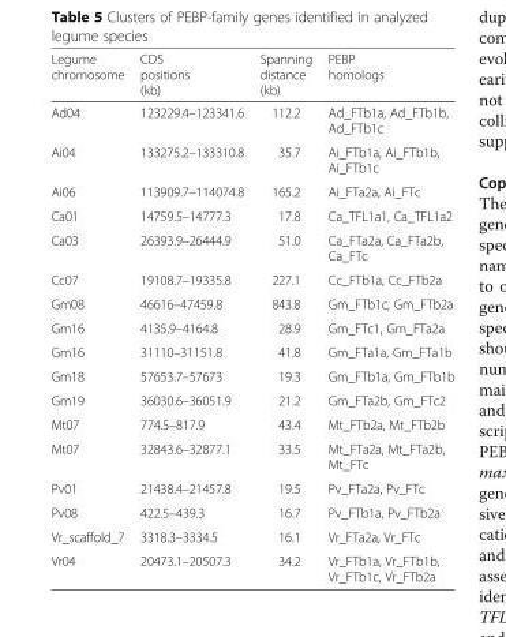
<table><thead><tr><td>Legume chromosome</td><td>CDS positions (kb)</td><td>Spanning distance (kb)</td><td>PEBP homologs</td></tr></thead><tbody><tr><td>Ad04</td><td>123229.4–123341.6</td><td>112.2</td><td>Ad_FTb1a, Ad_FTb1b, Ad_FTb1c</td></tr><tr><td>Ai04</td><td>133275.2–133310.8</td><td>35.7</td><td>Ai_FTb1a, Ai_FTb1b, Ai_FTb1c</td></tr><tr><td>Ai06</td><td>113909.7–114074.8</td><td>165.2</td><td>Ai_FTa2a, Ai_FTc</td></tr><tr><td>Ca01</td><td>14759.5–14777.3</td><td>17.8</td><td>Ca_TFL1a1, Ca_TFL1a2</td></tr><tr><td>Ca03</td><td>26393.9–26444.9</td><td>51.0</td><td>Ca_FTa2a, Ca_FTa2b, Ca_FTc</td></tr><tr><td>Cc07</td><td>19108.7–19335.8</td><td>227.1</td><td>Cc_FTb1a, Cc_FTb2a</td></tr><tr><td>Gm08</td><td>46616–47459.8</td><td>843.8</td><td>Gm_FTb1c, Gm_FTb2a</td></tr><tr><td>Gm16</td><td>4135.9–4164.8</td><td>28.9</td><td>Gm_FTc1, Gm_FTa2a</td></tr><tr><td>Gm16</td><td>31110–31151.8</td><td>41.8</td><td>Gm_FTa1a, Gm_FTa1b</td></tr><tr><td>Gm18</td><td>57653.7–57673</td><td>19.3</td><td>Gm_FTb1a, Gm_FTb1b</td></tr><tr><td>Gm19</td><td>36030.6–36051.9</td><td>21.2</td><td>Gm_FTa2b, Gm_FTc2</td></tr><tr><td>Mt07</td><td>774.5–817.9</td><td>43.4</td><td>Mt_FTb2a, Mt_FTb2b</td></tr><tr><td>Mt07</td><td>32843.6–32877.1</td><td>33.5</td><td>Mt_FTa2a, Mt_FTa2b, Mt_FTc</td></tr><tr><td>Pv01</td><td>21438.4–21457.8</td><td>19.5</td><td>Pv_FTa2a, Pv_FTc</td></tr><tr><td>Pv08</td><td>422.5–439.3</td><td>16.7</td><td>Pv_FTb1a, Pv_FTb2a</td></tr><tr><td>Vr_scaffold_7</td><td>3318.3–3334.5</td><td>16.1</td><td>Vr_FTa2a, Vr_FTc</td></tr><tr><td>Vr04</td><td>20473.1–20507.3</td><td>34.2</td><td>Vr_FTb1a, Vr_FTb1b, Vr_FTb1c, Vr_FTb2a</td></tr></tbody></table>